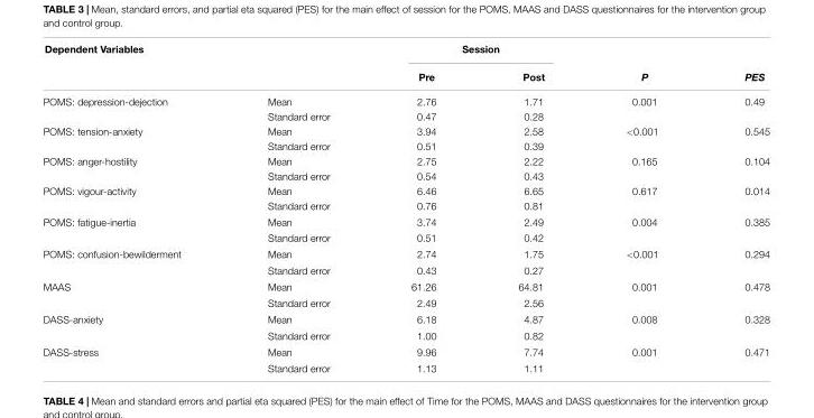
<table><thead><tr><td colspan="2">Dependent Variables</td><td colspan="2">Session</td><td rowspan="2">P</td><td rowspan="2">PES</td></tr><tr><td></td><td></td><td>Pre</td><td>Post</td></tr></thead><tbody><tr><td rowspan="2">POMS: depression-dejection</td><td>Mean</td><td>2.76</td><td>1.71</td><td>0.001</td><td>0.49</td></tr><tr><td>Standard error</td><td>0.47</td><td>0.28</td><td></td><td></td></tr><tr><td rowspan="2">POMS: tension-anxiety</td><td>Mean</td><td>3.94</td><td>2.58</td><td>&lt;0.001</td><td>0.545</td></tr><tr><td>Standard error</td><td>0.51</td><td>0.39</td><td></td><td></td></tr><tr><td rowspan="2">POMS: anger-hostility</td><td>Mean</td><td>2.75</td><td>2.22</td><td>0.165</td><td>0.104</td></tr><tr><td>Standard error</td><td>0.54</td><td>0.43</td><td></td><td></td></tr><tr><td rowspan="2">POMS: vigour-activity</td><td>Mean</td><td>6.46</td><td>6.65</td><td>0.617</td><td>0.014</td></tr><tr><td>Standard error</td><td>0.76</td><td>0.81</td><td></td><td></td></tr><tr><td rowspan="2">POMS: fatigue-inertia</td><td>Mean</td><td>3.74</td><td>2.49</td><td>0.004</td><td>0.385</td></tr><tr><td>Standard error</td><td>0.51</td><td>0.42</td><td></td><td></td></tr><tr><td rowspan="2">POMS: confusion-bewilderment</td><td>Mean</td><td>2.74</td><td>1.75</td><td>&lt;0.001</td><td>0.294</td></tr><tr><td>Standard error</td><td>0.43</td><td>0.27</td><td></td><td></td></tr><tr><td rowspan="2">MAAS</td><td>Mean</td><td>61.26</td><td>64.81</td><td>0.001</td><td>0.478</td></tr><tr><td>Standard error</td><td>2.49</td><td>2.56</td><td></td><td></td></tr><tr><td rowspan="2">DASS-anxiety</td><td>Mean</td><td>6.18</td><td>4.87</td><td>0.008</td><td>0.328</td></tr><tr><td>Standard error</td><td>1.00</td><td>0.82</td><td></td><td></td></tr><tr><td rowspan="2">DASS-stress</td><td>Mean</td><td>9.96</td><td>7.74</td><td>0.001</td><td>0.471</td></tr><tr><td>Standard error</td><td>1.13</td><td>1.11</td><td></td><td></td></tr></tbody></table>